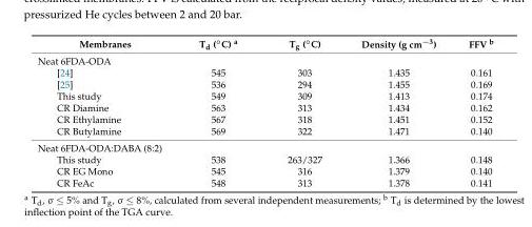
<table><thead><tr><td>Membranes</td><td>Td (◦C) a</td><td>Tg (◦C)</td><td>Density (g cm<sup>−3</sup>)</td><td>FFV <sup>b</sup></td></tr></thead><tbody><tr><td colspan="5">Neat 6FDA-ODA</td></tr><tr><td>[24]</td><td>545</td><td>303</td><td>1.435</td><td>0.161</td></tr><tr><td>[25]</td><td>536</td><td>294</td><td>1.455</td><td>0.169</td></tr><tr><td>This study</td><td>549</td><td>309</td><td>1.413</td><td>0.174</td></tr><tr><td>CR Diamine</td><td>563</td><td>313</td><td>1.434</td><td>0.162</td></tr><tr><td>CR Ethylamine</td><td>567</td><td>318</td><td>1.451</td><td>0.152</td></tr><tr><td>CR Butylamine</td><td>569</td><td>322</td><td>1.471</td><td>0.140</td></tr><tr><td colspan="5">Neat 6FDA-ODA:DABA (8:2)</td></tr><tr><td>This study</td><td>538</td><td>263/327</td><td>1.366</td><td>0.148</td></tr><tr><td>CR EG Mono</td><td>545</td><td>316</td><td>1.379</td><td>0.140</td></tr><tr><td>CR FeAc</td><td>548</td><td>313</td><td>1.378</td><td>0.141</td></tr></tbody></table>